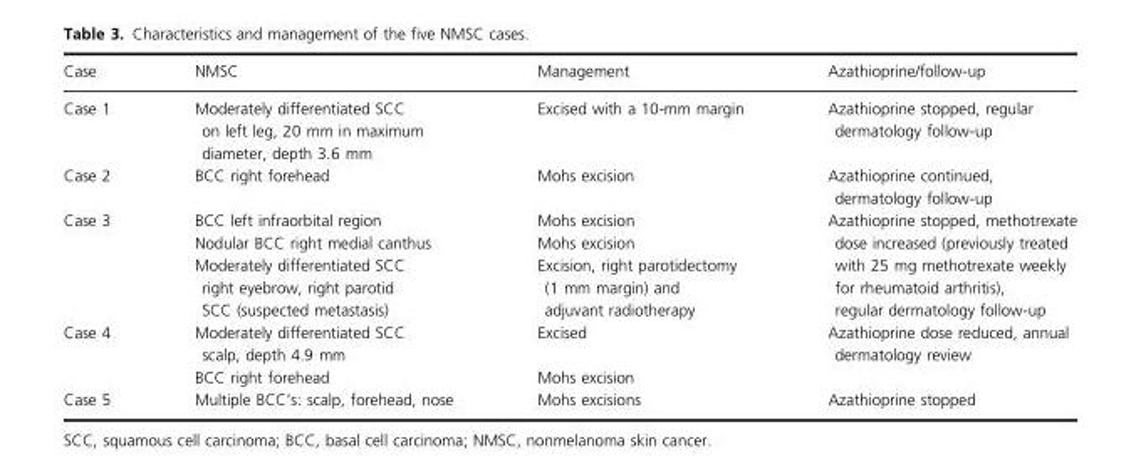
<table><thead><tr><td>Case</td><td>NMSC</td><td>Management</td><td>Azathioprine/follow-up</td></tr></thead><tbody><tr><td>Case 1</td><td>Moderately differentiated SCC on left leg, 20 mm in maximum diameter, depth 3.6 mm</td><td>Excised with a 10-mm margin</td><td>Azathioprine stopped, regular dermatology follow-up</td></tr><tr><td>Case 2</td><td>BCC right forehead</td><td>Mohs excision</td><td>Azathioprine continued, dermatology follow-up</td></tr><tr><td rowspan="3">Case 3</td><td>BCC left infraorbital region</td><td>Mohs excision</td><td rowspan="3">Azathioprine stopped, methotrexate dose increased (previously treated with 25 mg methotrexate weekly for rheumatoid arthritis), regular dermatology follow-up</td></tr><tr><td>Nodular BCC right medial canthus</td><td>Mohs excision</td></tr><tr><td>Moderately differentiated SCC right eyebrow, right parotid SCC (suspected metastasis)</td><td>Excision, right parotidectomy (1 mm margin) and adjuvant radiotherapy</td></tr><tr><td rowspan="2">Case 4</td><td>Moderately differentiated SCC scalp, depth 4.9 mm</td><td>Excised</td><td rowspan="2">Azathioprine dose reduced, annual dermatology review</td></tr><tr><td>BCC right forehead</td><td>Mohs excision</td></tr><tr><td>Case 5</td><td>Multiple BCC’s: scalp, forehead, nose</td><td>Mohs excisions</td><td>Azathioprine stopped</td></tr></tbody></table>